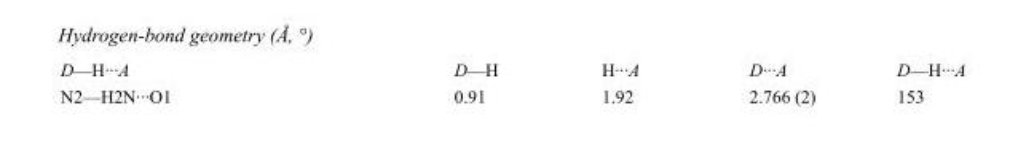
<table><tbody><tr><td>D—H···A</td><td>D—H</td><td>H···A</td><td>D···A</td><td>D—H···A</td></tr><tr><td>N2—H2N···O1</td><td>0.91</td><td>1.92</td><td>2.766 (2)</td><td>153</td></tr></tbody></table>